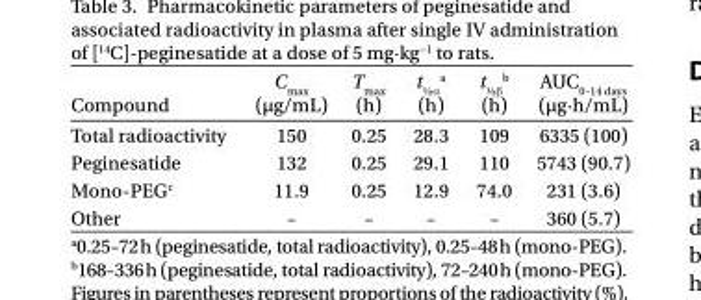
<table><thead><tr><td>Compound</td><td>C<sub>max</sub> (µg/mL)</td><td>T<sub>max</sub> (h)</td><td>t<sub>½α</sub> <sup>a</sup> (h)</td><td>t<sub>½β</sub> <sup>b</sup> (h)</td><td>AUC<sub>0–14 days</sub> (µg·h/mL)</td></tr></thead><tbody><tr><td>Total radioactivity</td><td>150</td><td>0.25</td><td>28.3</td><td>109</td><td>6335 (100)</td></tr><tr><td>Peginesatide</td><td>132</td><td>0.25</td><td>29.1</td><td>110</td><td>5743 (90.7)</td></tr><tr><td>Mono-PEG<sup>c</sup></td><td>11.9</td><td>0.25</td><td>12.9</td><td>74.0</td><td>231 (3.6)</td></tr><tr><td>Other</td><td>–</td><td>–</td><td>–</td><td>–</td><td>360 (5.7)</td></tr></tbody></table>